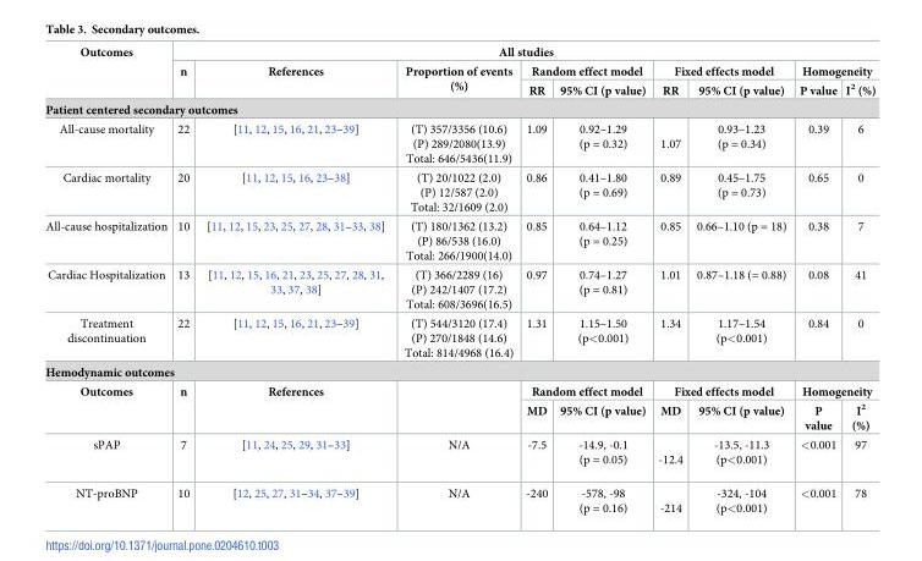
<table><thead><tr><td rowspan="3">Outcomes</td><td colspan="9">All studies</td></tr><tr><td rowspan="2">n</td><td rowspan="2">References</td><td rowspan="2">Proportion of events (%)</td><td colspan="2">Random effect model</td><td colspan="2">Fixed effects model</td><td colspan="2">Homogeneity</td></tr><tr><td>RR</td><td>95% CI (p value)</td><td>RR</td><td>95% CI (p value)</td><td>P value</td><td>I<sup>2</sup> (%)</td></tr></thead><tbody><tr><td colspan="10">Patient centered secondary outcomes</td></tr><tr><td>All-cause mortality</td><td>22</td><td>[11, 12, 15, 16, 21, 23–39]</td><td>(T) 357/3356 (10.6) (P) 289/2080(13.9) Total: 646/5436(11.9)</td><td>1.09</td><td>0.92–1.29 (p = 0.32)</td><td>1.07</td><td>0.93–1.23 (p = 0.34)</td><td>0.39</td><td>6</td></tr><tr><td>Cardiac mortality</td><td>20</td><td>[11, 12, 15, 16, 23–38]</td><td>(T) 20/1022 (2.0) (P) 12/587 (2.0) Total: 32/1609 (2.0)</td><td>0.86</td><td>0.41–1.80 (p = 0.69)</td><td>0.89</td><td>0.45–1.75 (p = 0.73)</td><td>0.65</td><td>0</td></tr><tr><td>All-cause hospitalization</td><td>10</td><td>[11, 12, 15, 23, 25, 27, 28, 31–33, 38]</td><td>(T) 180/1362 (13.2) (P) 86/538 (16.0) Total: 266/1900(14.0)</td><td>0.85</td><td>0.64–1.12 (p = 0.25)</td><td>0.85</td><td>0.66–1.10 (p = 18)</td><td>0.38</td><td>7</td></tr><tr><td>Cardiac Hospitalization</td><td>13</td><td>[11, 12, 15, 16, 21, 23, 25, 27, 28, 31, 33, 37, 38]</td><td>(T) 366/2289 (16) (P) 242/1407 (17.2) Total: 608/3696(16.5)</td><td>0.97</td><td>0.74–1.27 (p = 0.81)</td><td>1.01</td><td>0.87–1.18 (= 0.88)</td><td>0.08</td><td>41</td></tr><tr><td>Treatment discontinuation</td><td>22</td><td>[11, 12, 15, 16, 21, 23–39]</td><td>(T) 544/3120 (17.4) (P) 270/1848 (14.6) Total: 814/4968 (16.4)</td><td>1.31</td><td>1.15–1.50 (p&lt;0.001)</td><td>1.34</td><td>1.17–1.54 (p&lt;0.001)</td><td>0.84</td><td>0</td></tr><tr><td colspan="10">Hemodynamic outcomes</td></tr><tr><td rowspan="2">Outcomes</td><td rowspan="2">n</td><td rowspan="2">References</td><td rowspan="2"></td><td colspan="2">Random effect model</td><td colspan="2">Fixed effects model</td><td colspan="2">Homogeneity</td></tr><tr><td>MD</td><td>95% CI (p value)</td><td>MD</td><td>95% CI (p value)</td><td>P value</td><td>I<sup>2</sup> (%)</td></tr><tr><td>sPAP</td><td>7</td><td>[11, 24, 25, 29, 31–33]</td><td>N/A</td><td>-7.5</td><td>-14.9, -0.1 (p = 0.05)</td><td>-12.4</td><td>-13.5, -11.3 (p&lt;0.001)</td><td>&lt;0.001</td><td>97</td></tr><tr><td>NT-proBNP</td><td>10</td><td>[12, 25, 27, 31–34, 37–39]</td><td>N/A</td><td>-240</td><td>-578, -98 (p = 0.16)</td><td>-214</td><td>-324, -104 (p&lt;0.001)</td><td>&lt;0.001</td><td>78</td></tr></tbody></table>